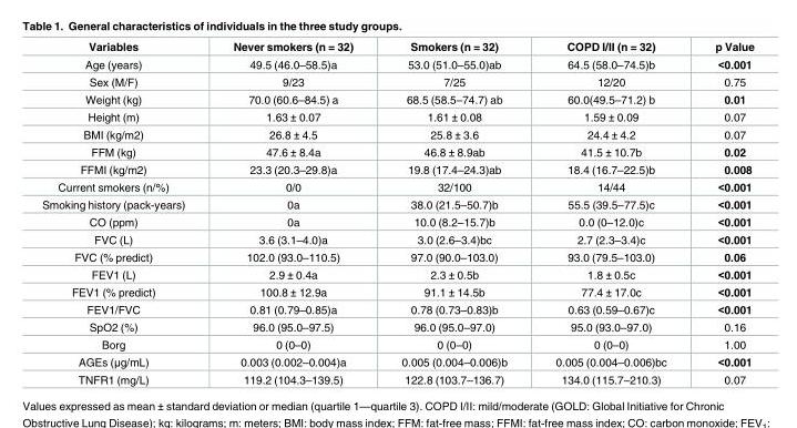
<table><thead><tr><td>Variables</td><td>Never smokers (n = 32)</td><td>Smokers (n = 32)</td><td>COPD I/II (n = 32)</td><td>p Value</td></tr></thead><tbody><tr><td>Age (years)</td><td>49.5 (46.0–58.5)a</td><td>53.0 (51.0–55.0)ab</td><td>64.5 (58.0–74.5)b</td><td>&lt;0.001</td></tr><tr><td>Sex (M/F)</td><td>9/23</td><td>7/25</td><td>12/20</td><td>0.75</td></tr><tr><td>Weight (kg)</td><td>70.0 (60.6–84.5) a</td><td>68.5 (58.5–74.7) ab</td><td>60.0(49.5–71.2) b</td><td>0.01</td></tr><tr><td>Height (m)</td><td>1.63 ± 0.07</td><td>1.61 ± 0.08</td><td>1.59 ± 0.09</td><td>0.07</td></tr><tr><td>BMI (kg/m2)</td><td>26.8 ± 4.5</td><td>25.8 ± 3.6</td><td>24.4 ± 4.2</td><td>0.07</td></tr><tr><td>FFM (kg)</td><td>47.6 ± 8.4a</td><td>46.8 ± 8.9ab</td><td>41.5 ± 10.7b</td><td>0.02</td></tr><tr><td>FFMI (kg/m2)</td><td>23.3 (20.3–29.8)a</td><td>19.8 (17.4–24.3)ab</td><td>18.4 (16.7–22.5)b</td><td>0.008</td></tr><tr><td>Current smokers (n/%)</td><td>0/0</td><td>32/100</td><td>14/44</td><td>&lt;0.001</td></tr><tr><td>Smoking history (pack-years)</td><td>0a</td><td>38.0 (21.5–50.7)b</td><td>55.5 (39.5–77.5)c</td><td>&lt;0.001</td></tr><tr><td>CO (ppm)</td><td>0a</td><td>10.0 (8.2–15.7)b</td><td>0.0 (0–12.0)c</td><td>&lt;0.001</td></tr><tr><td>FVC (L)</td><td>3.6 (3.1–4.0)a</td><td>3.0 (2.6–3.4)bc</td><td>2.7 (2.3–3.4)c</td><td>&lt;0.001</td></tr><tr><td>FVC (% predict)</td><td>102.0 (93.0–110.5)</td><td>97.0 (90.0–103.0)</td><td>93.0 (79.5–103.0)</td><td>0.06</td></tr><tr><td>FEV1 (L)</td><td>2.9 ± 0.4a</td><td>2.3 ± 0.5b</td><td>1.8 ± 0.5c</td><td>&lt;0.001</td></tr><tr><td>FEV1 (% predict)</td><td>100.8 ± 12.9a</td><td>91.1 ± 14.5b</td><td>77.4 ± 17.0c</td><td>&lt;0.001</td></tr><tr><td>FEV1/FVC</td><td>0.81 (0.79–0.85)a</td><td>0.78 (0.73–0.83)b</td><td>0.63 (0.59–0.67)c</td><td>&lt;0.001</td></tr><tr><td>SpO2 (%)</td><td>96.0 (95.0–97.5)</td><td>96.0 (95.0–97.0)</td><td>95.0 (93.0–97.0)</td><td>0.16</td></tr><tr><td>Borg</td><td>0 (0–0)</td><td>0 (0–0)</td><td>0 (0–0)</td><td>1.00</td></tr><tr><td>AGEs (μg/mL)</td><td>0.003 (0.002–0.004)a</td><td>0.005 (0.004–0.006)b</td><td>0.005 (0.004–0.006)bc</td><td>&lt;0.001</td></tr><tr><td>TNFR1 (mg/L)</td><td>119.2 (104.3–139.5)</td><td>122.8 (103.7–136.7)</td><td>134.0 (115.7–210.3)</td><td>0.07</td></tr></tbody></table>